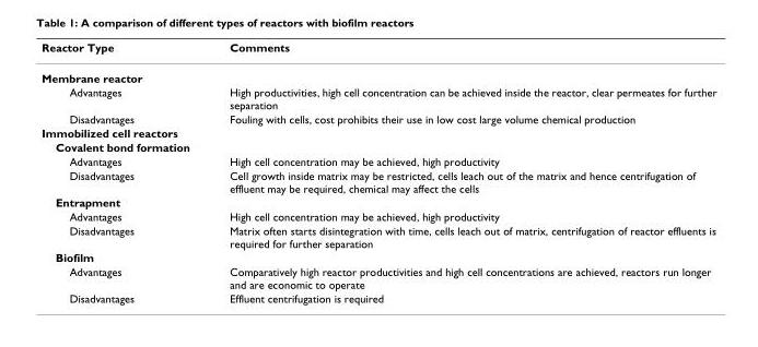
<table><thead><tr><td>Reactor Type</td><td>Comments</td></tr></thead><tbody><tr><td colspan="2">Membrane reactor</td></tr><tr><td>Advantages</td><td>High productivities, high cell concentration can be achieved inside the reactor, clear permeates for further separation</td></tr><tr><td>Disadvantages</td><td>Fouling with cells, cost prohibits their use in low cost large volume chemical production</td></tr><tr><td colspan="2">Immobilized cell reactors</td></tr><tr><td colspan="2">Covalent bond formation</td></tr><tr><td>Advantages</td><td>High cell concentration may be achieved, high productivity</td></tr><tr><td>Disadvantages</td><td>Cell growth inside matrix may be restricted, cells leach out of the matrix and hence centrifugation of effluent may be required, chemical may affect the cells</td></tr><tr><td colspan="2">Entrapment</td></tr><tr><td>Advantages</td><td>High cell concentration may be achieved, high productivity</td></tr><tr><td>Disadvantages</td><td>Matrix often starts disintegration with time, cells leach out of matrix, centrifugation of reactor effluents is required for further separation</td></tr><tr><td colspan="2">Biofilm</td></tr><tr><td>Advantages</td><td>Comparatively high reactor productivities and high cell concentrations are achieved, reactors run longer and are economic to operate</td></tr><tr><td>Disadvantages</td><td>Effluent centrifugation is required</td></tr></tbody></table>